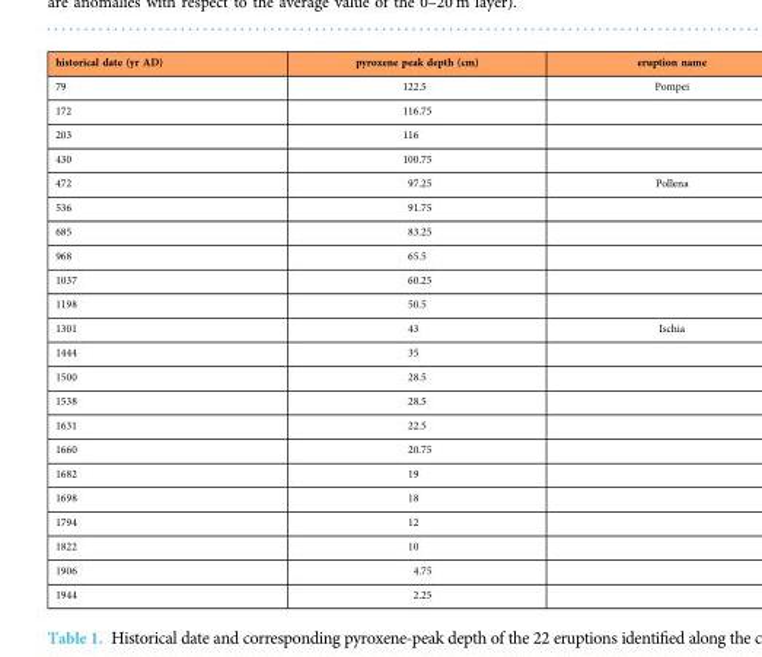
<table><thead><tr><td>historical date (yr AD)</td><td>pyroxene peak depth (cm)</td><td>eruption name</td></tr></thead><tbody><tr><td>79</td><td>122.5</td><td>Pompei</td></tr><tr><td>172</td><td>116.75</td><td></td></tr><tr><td>203</td><td>116</td><td></td></tr><tr><td>430</td><td>100.75</td><td></td></tr><tr><td>472</td><td>97.25</td><td>Pollena</td></tr><tr><td>536</td><td>91.75</td><td></td></tr><tr><td>685</td><td>83.25</td><td></td></tr><tr><td>968</td><td>65.5</td><td></td></tr><tr><td>1037</td><td>60.25</td><td></td></tr><tr><td>1198</td><td>50.5</td><td></td></tr><tr><td>1301</td><td>43</td><td>Ischia</td></tr><tr><td>1444</td><td>35</td><td></td></tr><tr><td>1500</td><td>28.5</td><td></td></tr><tr><td>1538</td><td>28.5</td><td></td></tr><tr><td>1631</td><td>22.5</td><td></td></tr><tr><td>1660</td><td>20.75</td><td></td></tr><tr><td>1682</td><td>19</td><td></td></tr><tr><td>1698</td><td>18</td><td></td></tr><tr><td>1794</td><td>12</td><td></td></tr><tr><td>1822</td><td>10</td><td></td></tr><tr><td>1906</td><td>4.75</td><td></td></tr><tr><td>1944</td><td>2.25</td><td></td></tr></tbody></table>